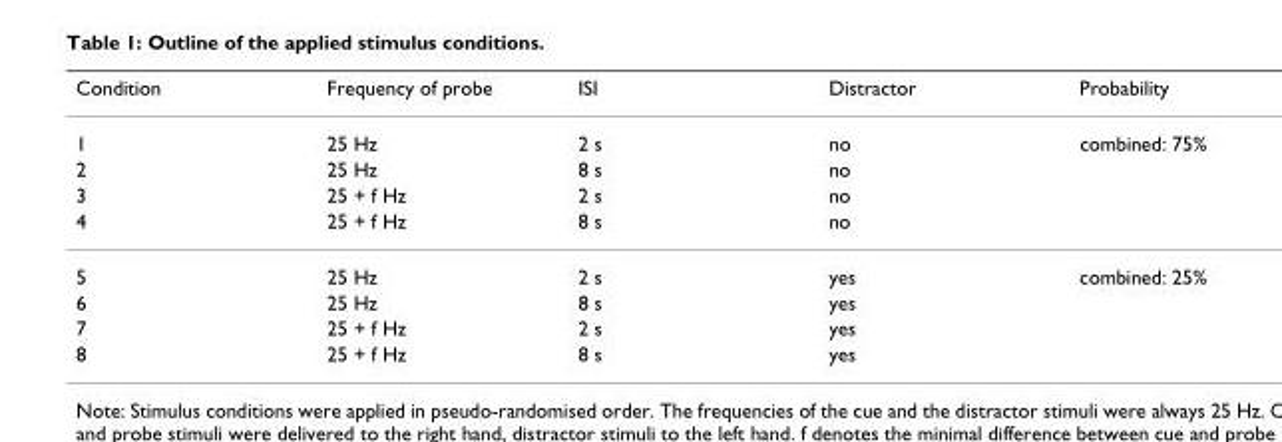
<table><thead><tr><td>Condition</td><td>Frequency of probe</td><td>ISI</td><td>Distractor</td><td>Probability</td></tr></thead><tbody><tr><td>1</td><td>25 Hz</td><td>2 s</td><td>no</td><td>combined: 75%</td></tr><tr><td>2</td><td>25 Hz</td><td>8 s</td><td>no</td><td></td></tr><tr><td>3</td><td>25 + f Hz</td><td>2 s</td><td>no</td><td></td></tr><tr><td>4</td><td>25 + f Hz</td><td>8 s</td><td>no</td><td></td></tr><tr><td>5</td><td>25 Hz</td><td>2 s</td><td>yes</td><td>combined: 25%</td></tr><tr><td>6</td><td>25 Hz</td><td>8 s</td><td>yes</td><td></td></tr><tr><td>7</td><td>25 + f Hz</td><td>2 s</td><td>yes</td><td></td></tr><tr><td>8</td><td>25 + f Hz</td><td>8 s</td><td>yes</td><td></td></tr></tbody></table>